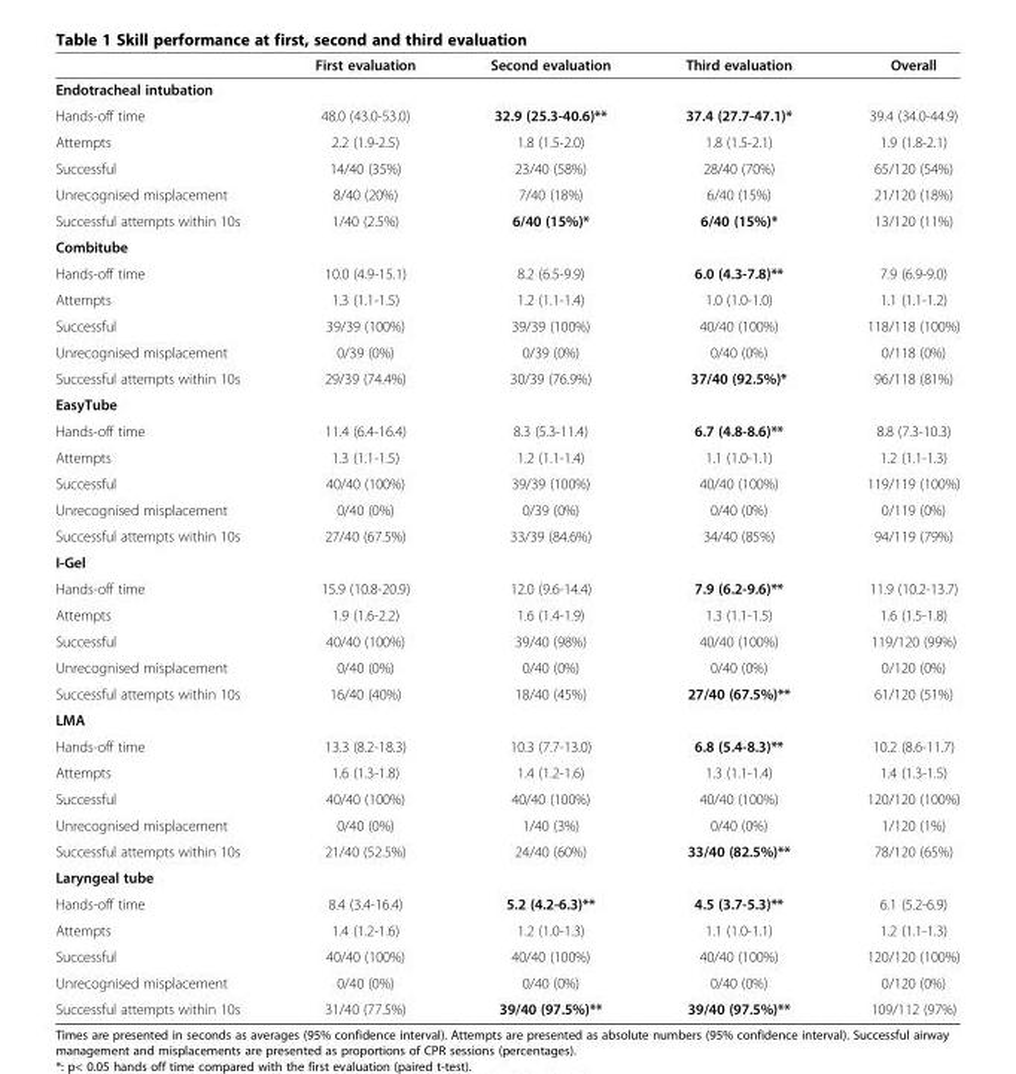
<table><thead><tr><td></td><td>First evaluation</td><td>Second evaluation</td><td>Third evaluation</td><td>Overall</td></tr></thead><tbody><tr><td colspan="5">Endotracheal intubation</td></tr><tr><td>Hands-off time</td><td>48.0 (43.0-53.0)</td><td>32.9 (25.3-40.6)**</td><td>37.4 (27.7-47.1)*</td><td>39.4 (34.0-44.9)</td></tr><tr><td>Attempts</td><td>2.2 (1.9-2.5)</td><td>1.8 (1.5-2.0)</td><td>1.8 (1.5-2.1)</td><td>1.9 (1.8-2.1)</td></tr><tr><td>Successful</td><td>14/40 (35%)</td><td>23/40 (58%)</td><td>28/40 (70%)</td><td>65/120 (54%)</td></tr><tr><td>Unrecognised misplacement</td><td>8/40 (20%)</td><td>7/40 (18%)</td><td>6/40 (15%)</td><td>21/120 (18%)</td></tr><tr><td>Successful attempts within 10s</td><td>1/40 (2.5%)</td><td>6/40 (15%)*</td><td>6/40 (15%)*</td><td>13/120 (11%)</td></tr><tr><td colspan="5">Combitube</td></tr><tr><td>Hands-off time</td><td>10.0 (4.9-15.1)</td><td>8.2 (6.5-9.9)</td><td>6.0 (4.3-7.8)**</td><td>7.9 (6.9-9.0)</td></tr><tr><td>Attempts</td><td>1.3 (1.1-1.5)</td><td>1.2 (1.1-1.4)</td><td>1.0 (1.0-1.0)</td><td>1.1 (1.1-1.2)</td></tr><tr><td>Successful</td><td>39/39 (100%)</td><td>39/39 (100%)</td><td>40/40 (100%)</td><td>118/118 (100%)</td></tr><tr><td>Unrecognised misplacement</td><td>0/39 (0%)</td><td>0/39 (0%)</td><td>0/40 (0%)</td><td>0/118 (0%)</td></tr><tr><td>Successful attempts within 10s</td><td>29/39 (74.4%)</td><td>30/39 (76.9%)</td><td>37/40 (92.5%)*</td><td>96/118 (81%)</td></tr><tr><td colspan="5">EasyTube</td></tr><tr><td>Hands-off time</td><td>11.4 (6.4-16.4)</td><td>8.3 (5.3-11.4)</td><td>6.7 (4.8-8.6)**</td><td>8.8 (7.3-10.3)</td></tr><tr><td>Attempts</td><td>1.3 (1.1-1.5)</td><td>1.2 (1.1-1.4)</td><td>1.1 (1.0-1.1)</td><td>1.2 (1.1-1.3)</td></tr><tr><td>Successful</td><td>40/40 (100%)</td><td>39/39 (100%)</td><td>40/40 (100%)</td><td>119/119 (100%)</td></tr><tr><td>Unrecognised misplacement</td><td>0/40 (0%)</td><td>0/39 (0%)</td><td>0/40 (0%)</td><td>0/119 (0%)</td></tr><tr><td>Successful attempts within 10s</td><td>27/40 (67.5%)</td><td>33/39 (84.6%)</td><td>34/40 (85%)</td><td>94/119 (79%)</td></tr><tr><td colspan="5">I-Gel</td></tr><tr><td>Hands-off time</td><td>15.9 (10.8-20.9)</td><td>12.0 (9.6-14.4)</td><td>7.9 (6.2-9.6)**</td><td>11.9 (10.2-13.7)</td></tr><tr><td>Attempts</td><td>1.9 (1.6-2.2)</td><td>1.6 (1.4-1.9)</td><td>1.3 (1.1-1.5)</td><td>1.6 (1.5-1.8)</td></tr><tr><td>Successful</td><td>40/40 (100%)</td><td>39/40 (98%)</td><td>40/40 (100%)</td><td>119/120 (99%)</td></tr><tr><td>Unrecognised misplacement</td><td>0/40 (0%)</td><td>0/40 (0%)</td><td>0/40 (0%)</td><td>0/120 (0%)</td></tr><tr><td>Successful attempts within 10s</td><td>16/40 (40%)</td><td>18/40 (45%)</td><td>27/40 (67.5%)**</td><td>61/120 (51%)</td></tr><tr><td colspan="5">LMA</td></tr><tr><td>Hands-off time</td><td>13.3 (8.2-18.3)</td><td>10.3 (7.7-13.0)</td><td>6.8 (5.4-8.3)**</td><td>10.2 (8.6-11.7)</td></tr><tr><td>Attempts</td><td>1.6 (1.3-1.8)</td><td>1.4 (1.2-1.6)</td><td>1.3 (1.1-1.4)</td><td>1.4 (1.3-1.5)</td></tr><tr><td>Successful</td><td>40/40 (100%)</td><td>40/40 (100%)</td><td>40/40 (100%)</td><td>120/120 (100%)</td></tr><tr><td>Unrecognised misplacement</td><td>0/40 (0%)</td><td>1/40 (3%)</td><td>0/40 (0%)</td><td>1/120 (1%)</td></tr><tr><td>Successful attempts within 10s</td><td>21/40 (52.5%)</td><td>24/40 (60%)</td><td>33/40 (82.5%)**</td><td>78/120 (65%)</td></tr><tr><td colspan="5">Laryngeal tube</td></tr><tr><td>Hands-off time</td><td>8.4 (3.4-16.4)</td><td>5.2 (4.2-6.3)**</td><td>4.5 (3.7-5.3)**</td><td>6.1 (5.2-6.9)</td></tr><tr><td>Attempts</td><td>1.4 (1.2-1.6)</td><td>1.2 (1.0-1.3)</td><td>1.1 (1.0-1.1)</td><td>1.2 (1.1-1.3)</td></tr><tr><td>Successful</td><td>40/40 (100%)</td><td>40/40 (100%)</td><td>40/40 (100%)</td><td>120/120 (100%)</td></tr><tr><td>Unrecognised misplacement</td><td>0/40 (0%)</td><td>0/40 (0%)</td><td>0/40 (0%)</td><td>0/120 (0%)</td></tr><tr><td>Successful attempts within 10s</td><td>31/40 (77.5%)</td><td>39/40 (97.5%)**</td><td>39/40 (97.5%)**</td><td>109/112 (97%)</td></tr></tbody></table>